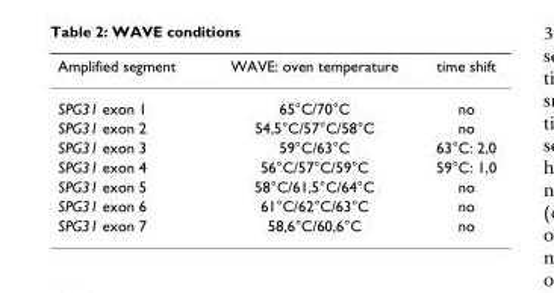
<table><thead><tr><td>Amplified segment</td><td>WAVE: oven temperature</td><td>time shift</td></tr></thead><tbody><tr><td>SPG31 exon 1</td><td>65°C/70°C</td><td>no</td></tr><tr><td>SPG31 exon 2</td><td>54,5°C/57°C/58°C</td><td>no</td></tr><tr><td>SPG31 exon 3</td><td>59°C/63°C</td><td>63°C: 2,0</td></tr><tr><td>SPG31 exon 4</td><td>56°C/57°C/59°C</td><td>59°C: 1,0</td></tr><tr><td>SPG31 exon 5</td><td>58°C/61,5°C/64°C</td><td>no</td></tr><tr><td>SPG31 exon 6</td><td>61°C/62°C/63°C</td><td>no</td></tr><tr><td>SPG31 exon 7</td><td>58,6°C/60,6°C</td><td>no</td></tr></tbody></table>